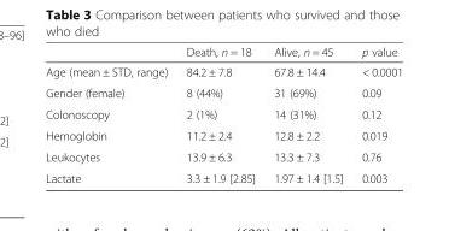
<table><thead><tr><td></td><td>Death, n = 18</td><td>Alive, n = 45</td><td>p value</td></tr></thead><tbody><tr><td>Age (mean ± STD, range)</td><td>84.2 ± 7.8</td><td>67.8 ± 14.4</td><td>&lt; 0.0001</td></tr><tr><td>Gender (female)</td><td>8 (44%)</td><td>31 (69%)</td><td>0.09</td></tr><tr><td>Colonoscopy</td><td>2 (1%)</td><td>14 (31%)</td><td>0.12</td></tr><tr><td>Hemoglobin</td><td>11.2 ± 2.4</td><td>12.8 ± 2.2</td><td>0.019</td></tr><tr><td>Leukocytes</td><td>13.9 ± 6.3</td><td>13.3 ± 7.3</td><td>0.76</td></tr><tr><td>Lactate</td><td>3.3 ± 1.9 [2.85]</td><td>1.97 ± 1.4 [1.5]</td><td>0.003</td></tr></tbody></table>